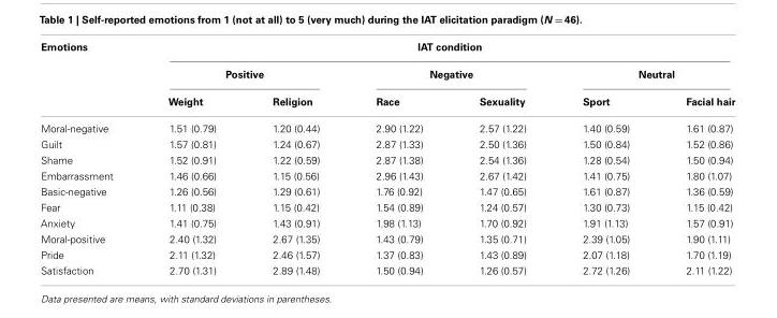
<table><thead><tr><td rowspan="3">Emotions</td><td colspan="6">IAT condition</td></tr><tr><td colspan="2">Positive</td><td colspan="2">Negative</td><td colspan="2">Neutral</td></tr><tr><td>Weight</td><td>Religion</td><td>Race</td><td>Sexuality</td><td>Sport</td><td>Facial hair</td></tr></thead><tbody><tr><td>Moral-negative</td><td>1.51 (0.79)</td><td>1.20 (0.44)</td><td>2.90 (1.22)</td><td>2.57 (1.22)</td><td>1.40 (0.59)</td><td>1.61 (0.87)</td></tr><tr><td>Guilt</td><td>1.57 (0.81)</td><td>1.24 (0.67)</td><td>2.87 (1.33)</td><td>2.50 (1.36)</td><td>1.50 (0.84)</td><td>1.52 (0.86)</td></tr><tr><td>Shame</td><td>1.52 (0.91)</td><td>1.22 (0.59)</td><td>2.87 (1.38)</td><td>2.54 (1.36)</td><td>1.28 (0.54)</td><td>1.50 (0.94)</td></tr><tr><td>Embarrassment</td><td>1.46 (0.66)</td><td>1.15 (0.56)</td><td>2.96 (1.43)</td><td>2.67 (1.42)</td><td>1.41 (0.75)</td><td>1.80 (1.07)</td></tr><tr><td>Basic-negative</td><td>1.26 (0.56)</td><td>1.29 (0.61)</td><td>1.76 (0.92)</td><td>1.47 (0.65)</td><td>1.61 (0.87)</td><td>1.36 (0.59)</td></tr><tr><td>Fear</td><td>1.11 (0.38)</td><td>1.15 (0.42)</td><td>1.54 (0.89)</td><td>1.24 (0.57)</td><td>1.30 (0.73)</td><td>1.15 (0.42)</td></tr><tr><td>Anxiety</td><td>1.41 (0.75)</td><td>1.43 (0.91)</td><td>1.98 (1.13)</td><td>1.70 (0.92)</td><td>1.91 (1.13)</td><td>1.57 (0.91)</td></tr><tr><td>Moral-positive</td><td>2.40 (1.32)</td><td>2.67 (1.35)</td><td>1.43 (0.79)</td><td>1.35 (0.71)</td><td>2.39 (1.05)</td><td>1.90 (1.11)</td></tr><tr><td>Pride</td><td>2.11 (1.32)</td><td>2.46 (1.57)</td><td>1.37 (0.83)</td><td>1.43 (0.89)</td><td>2.07 (1.18)</td><td>1.70 (1.19)</td></tr><tr><td>Satisfaction</td><td>2.70 (1.31)</td><td>2.89 (1.48)</td><td>1.50 (0.94)</td><td>1.26 (0.57)</td><td>2.72 (1.26)</td><td>2.11 (1.22)</td></tr></tbody></table>